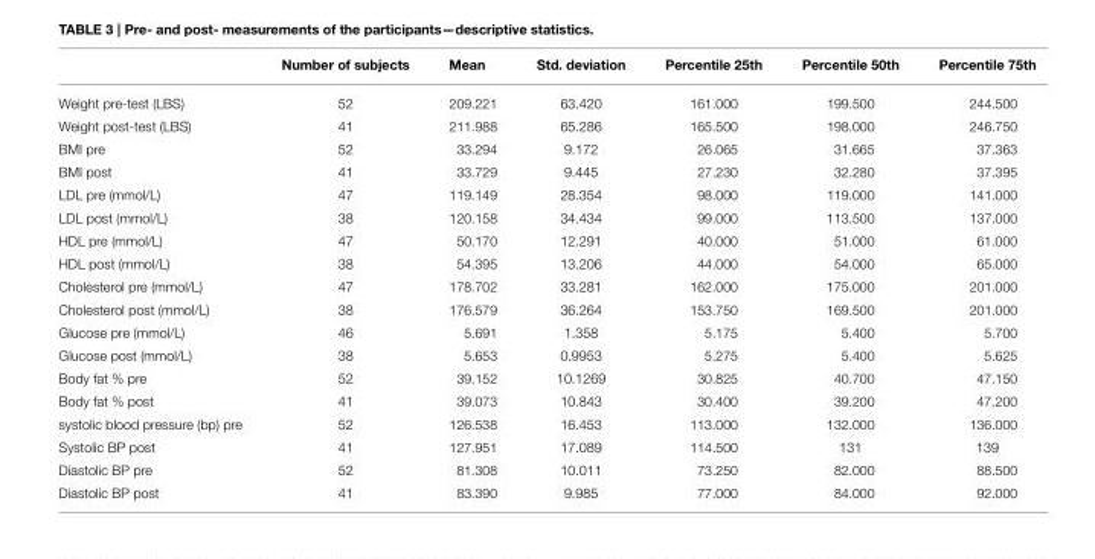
<table><thead><tr><td></td><td>Number of subjects</td><td>Mean</td><td>Std. deviation</td><td>Percentile 25th</td><td>Percentile 50th</td><td>Percentile 75th</td></tr></thead><tbody><tr><td>Weight pre-test (LBS)</td><td>52</td><td>209.221</td><td>63.420</td><td>161.000</td><td>199.500</td><td>244.500</td></tr><tr><td>Weight post-test (LBS)</td><td>41</td><td>211.988</td><td>65.286</td><td>165.500</td><td>198.000</td><td>246.750</td></tr><tr><td>BMI pre</td><td>52</td><td>33.294</td><td>9.172</td><td>26.065</td><td>31.665</td><td>37.363</td></tr><tr><td>BMI post</td><td>41</td><td>33.729</td><td>9.445</td><td>27.230</td><td>32.280</td><td>37.395</td></tr><tr><td>LDL pre (mmol/L)</td><td>47</td><td>119.149</td><td>28.354</td><td>98.000</td><td>119.000</td><td>141.000</td></tr><tr><td>LDL post (mmol/L)</td><td>38</td><td>120.158</td><td>34.434</td><td>99.000</td><td>113.500</td><td>137.000</td></tr><tr><td>HDL pre (mmol/L)</td><td>47</td><td>50.170</td><td>12.291</td><td>40.000</td><td>51.000</td><td>61.000</td></tr><tr><td>HDL post (mmol/L)</td><td>38</td><td>54.395</td><td>13.206</td><td>44.000</td><td>54.000</td><td>65.000</td></tr><tr><td>Cholesterol pre (mmol/L)</td><td>47</td><td>178.702</td><td>33.281</td><td>162.000</td><td>175.000</td><td>201.000</td></tr><tr><td>Cholesterol post (mmol/L)</td><td>38</td><td>176.579</td><td>36.264</td><td>153.750</td><td>169.500</td><td>201.000</td></tr><tr><td>Glucose pre (mmol/L)</td><td>46</td><td>5.691</td><td>1.358</td><td>5.175</td><td>5.400</td><td>5.700</td></tr><tr><td>Glucose post (mmol/L)</td><td>38</td><td>5.653</td><td>0.9953</td><td>5.275</td><td>5.400</td><td>5.625</td></tr><tr><td>Body fat % pre</td><td>52</td><td>39.152</td><td>10.1269</td><td>30.825</td><td>40.700</td><td>47.150</td></tr><tr><td>Body fat % post</td><td>41</td><td>39.073</td><td>10.843</td><td>30.400</td><td>39.200</td><td>47.200</td></tr><tr><td>systolic blood pressure (bp) pre</td><td>52</td><td>126.538</td><td>16.453</td><td>113.000</td><td>132.000</td><td>136.000</td></tr><tr><td>Systolic BP post</td><td>41</td><td>127.951</td><td>17.089</td><td>114.500</td><td>131</td><td>139</td></tr><tr><td>Diastolic BP pre</td><td>52</td><td>81.308</td><td>10.011</td><td>73.250</td><td>82.000</td><td>88.500</td></tr><tr><td>Diastolic BP post</td><td>41</td><td>83.390</td><td>9.985</td><td>77.000</td><td>84.000</td><td>92.000</td></tr></tbody></table>